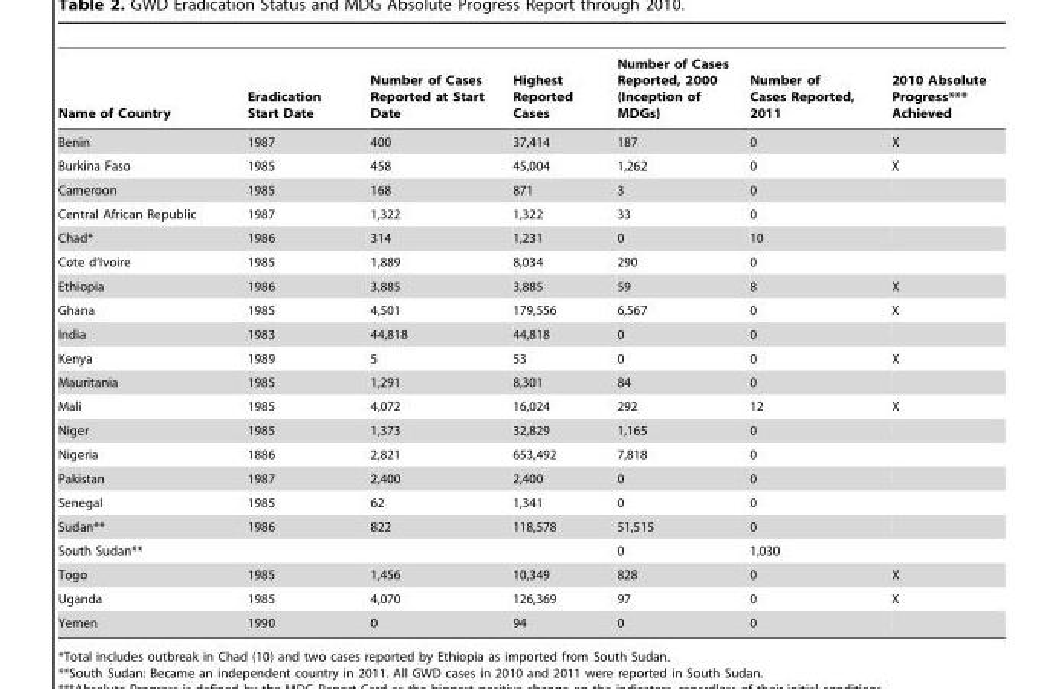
<table><thead><tr><td>Name of Country</td><td>Eradication Start Date</td><td>Number of Cases Reported at Start Date</td><td>Highest Reported Cases</td><td>Number of Cases Reported, 2000 (Inception of MDGs)</td><td>Number of Cases Reported, 2011</td><td>2010 Absolute Progress*** Achieved</td></tr></thead><tbody><tr><td>Benin</td><td>1987</td><td>400</td><td>37,414</td><td>187</td><td>0</td><td>X</td></tr><tr><td>Burkina Faso</td><td>1985</td><td>458</td><td>45,004</td><td>1,262</td><td>0</td><td>X</td></tr><tr><td>Cameroon</td><td>1985</td><td>168</td><td>871</td><td>3</td><td>0</td><td></td></tr><tr><td>Central African Republic</td><td>1987</td><td>1,322</td><td>1,322</td><td>33</td><td>0</td><td></td></tr><tr><td>Chad*</td><td>1986</td><td>314</td><td>1,231</td><td>0</td><td>10</td><td></td></tr><tr><td>Cote d’Ivoire</td><td>1985</td><td>1,889</td><td>8,034</td><td>290</td><td>0</td><td></td></tr><tr><td>Ethiopia</td><td>1986</td><td>3,885</td><td>3,885</td><td>59</td><td>8</td><td>X</td></tr><tr><td>Ghana</td><td>1985</td><td>4,501</td><td>179,556</td><td>6,567</td><td>0</td><td>X</td></tr><tr><td>India</td><td>1983</td><td>44,818</td><td>44,818</td><td>0</td><td>0</td><td></td></tr><tr><td>Kenya</td><td>1989</td><td>5</td><td>53</td><td>0</td><td>0</td><td>X</td></tr><tr><td>Mauritania</td><td>1985</td><td>1,291</td><td>8,301</td><td>84</td><td>0</td><td></td></tr><tr><td>Mali</td><td>1985</td><td>4,072</td><td>16,024</td><td>292</td><td>12</td><td>X</td></tr><tr><td>Niger</td><td>1985</td><td>1,373</td><td>32,829</td><td>1,165</td><td>0</td><td></td></tr><tr><td>Nigeria</td><td>1886</td><td>2,821</td><td>653,492</td><td>7,818</td><td>0</td><td></td></tr><tr><td>Pakistan</td><td>1987</td><td>2,400</td><td>2,400</td><td>0</td><td>0</td><td></td></tr><tr><td>Senegal</td><td>1985</td><td>62</td><td>1,341</td><td>0</td><td>0</td><td></td></tr><tr><td>Sudan**</td><td>1986</td><td>822</td><td>118,578</td><td>51,515</td><td>0</td><td></td></tr><tr><td>South Sudan**</td><td></td><td></td><td></td><td>0</td><td>1,030</td><td></td></tr><tr><td>Togo</td><td>1985</td><td>1,456</td><td>10,349</td><td>828</td><td>0</td><td>X</td></tr><tr><td>Uganda</td><td>1985</td><td>4,070</td><td>126,369</td><td>97</td><td>0</td><td>X</td></tr><tr><td>Yemen</td><td>1990</td><td>0</td><td>94</td><td>0</td><td>0</td><td></td></tr></tbody></table>